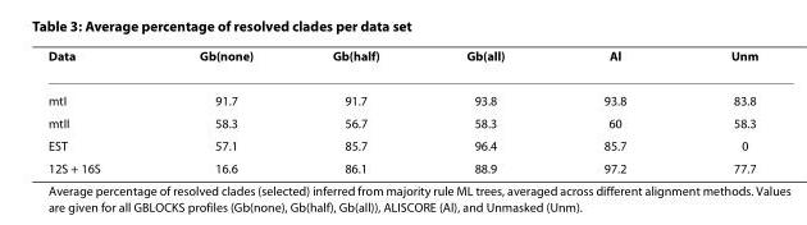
<table><thead><tr><td>Data</td><td>Gb(none)</td><td>Gb(half)</td><td>Gb(all)</td><td>Al</td><td>Unm</td></tr></thead><tbody><tr><td>mtI</td><td>91.7</td><td>91.7</td><td>93.8</td><td>93.8</td><td>83.8</td></tr><tr><td>mtII</td><td>58.3</td><td>56.7</td><td>58.3</td><td>60</td><td>58.3</td></tr><tr><td>EST</td><td>57.1</td><td>85.7</td><td>96.4</td><td>85.7</td><td>0</td></tr><tr><td>12S + 16S</td><td>16.6</td><td>86.1</td><td>88.9</td><td>97.2</td><td>77.7</td></tr></tbody></table>